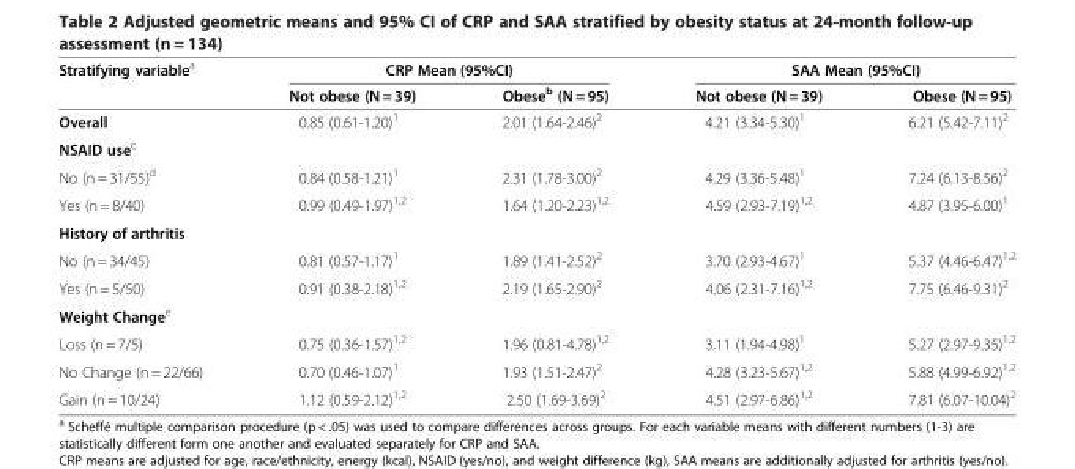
<table><thead><tr><td rowspan="2">Stratifying variable<sup>a</sup></td><td colspan="2">CRP Mean (95%CI)</td><td colspan="2">SAA Mean (95%CI)</td></tr><tr><td>Not obese (N = 39)</td><td>Obese<sup>b</sup> (N = 95)</td><td>Not obese (N = 39)</td><td>Obese (N = 95)</td></tr></thead><tbody><tr><td>Overall</td><td>0.85 (0.61-1.20)<sup>1</sup></td><td>2.01 (1.64-2.46)<sup>2</sup></td><td>4.21 (3.34-5.30)<sup>1</sup></td><td>6.21 (5.42-7.11)<sup>2</sup></td></tr><tr><td colspan="5">NSAID use<sup>c</sup></td></tr><tr><td>No (n = 31/55)<sup>d</sup></td><td>0.84 (0.58-1.21)<sup>1</sup></td><td>2.31 (1.78-3.00)<sup>2</sup></td><td>4.29 (3.36-5.48)<sup>1</sup></td><td>7.24 (6.13-8.56)<sup>2</sup></td></tr><tr><td>Yes (n = 8/40)</td><td>0.99 (0.49-1.97)<sup>1,2</sup></td><td>1.64 (1.20-2.23)<sup>1,2</sup></td><td>4.59 (2.93-7.19)<sup>1,2</sup></td><td>4.87 (3.95-6.00)<sup>1</sup></td></tr><tr><td colspan="5">History of arthritis</td></tr><tr><td>No (n = 34/45)</td><td>0.81 (0.57-1.17)<sup>1</sup></td><td>1.89 (1.41-2.52)<sup>2</sup></td><td>3.70 (2.93-4.67)<sup>1</sup></td><td>5.37 (4.46-6.47)<sup>1,2</sup></td></tr><tr><td>Yes (n = 5/50)</td><td>0.91 (0.38-2.18)<sup>1,2</sup></td><td>2.19 (1.65-2.90)<sup>2</sup></td><td>4.06 (2.31-7.16)<sup>1,2</sup></td><td>7.75 (6.46-9.31)<sup>2</sup></td></tr><tr><td colspan="5">Weight Change<sup>e</sup></td></tr><tr><td>Loss (n = 7/5)</td><td>0.75 (0.36-1.57)<sup>1,2</sup></td><td>1.96 (0.81-4.78)<sup>1,2</sup></td><td>3.11 (1.94-4.98)<sup>1</sup></td><td>5.27 (2.97-9.35)<sup>1,2</sup></td></tr><tr><td>No Change (n = 22/66)</td><td>0.70 (0.46-1.07)<sup>1</sup></td><td>1.93 (1.51-2.47)<sup>2</sup></td><td>4.28 (3.23-5.67)<sup>1,2</sup></td><td>5.88 (4.99-6.92)<sup>1,2</sup></td></tr><tr><td>Gain (n = 10/24)</td><td>1.12 (0.59-2.12)<sup>1,2</sup></td><td>2.50 (1.69-3.69)<sup>2</sup></td><td>4.51 (2.97-6.86)<sup>1,2</sup></td><td>7.81 (6.07-10.04)<sup>2</sup></td></tr></tbody></table>